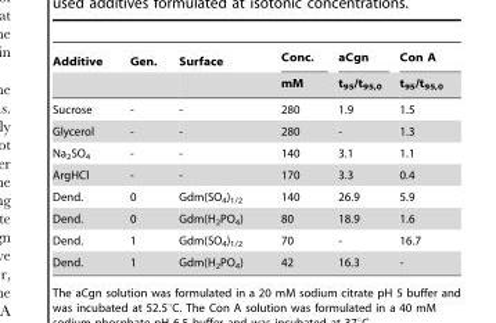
<table><thead><tr><td rowspan="2">Additive</td><td rowspan="2">Gen.</td><td rowspan="2">Surface</td><td rowspan="2">Conc. mM</td><td rowspan="2">aCgn t<sub>95</sub>/t<sub>95,0</sub></td><td rowspan="2">Con A t<sub>95</sub>/t<sub>95,0</sub></td></tr><tr></tr></thead><tbody><tr><td>Sucrose</td><td>-</td><td>-</td><td>280</td><td>1.9</td><td>1.5</td></tr><tr><td>Glycerol</td><td>-</td><td>-</td><td>280</td><td>-</td><td>1.3</td></tr><tr><td>Na<sub>2</sub>SO<sub>4</sub></td><td>-</td><td>-</td><td>140</td><td>3.1</td><td>1.1</td></tr><tr><td>ArgHCl</td><td>-</td><td>-</td><td>170</td><td>3.3</td><td>0.4</td></tr><tr><td>Dend.</td><td>0</td><td>Gdm(SO<sub>4</sub>)<sub>1/2</sub></td><td>140</td><td>26.9</td><td>5.9</td></tr><tr><td>Dend.</td><td>0</td><td>Gdm(H<sub>2</sub>PO<sub>4</sub>)</td><td>80</td><td>18.9</td><td>1.6</td></tr><tr><td>Dend.</td><td>1</td><td>Gdm(SO<sub>4</sub>)<sub>1/2</sub></td><td>70</td><td>-</td><td>16.7</td></tr><tr><td>Dend.</td><td>1</td><td>Gdm(H<sub>2</sub>PO<sub>4</sub>)</td><td>42</td><td>16.3</td><td>-</td></tr></tbody></table>